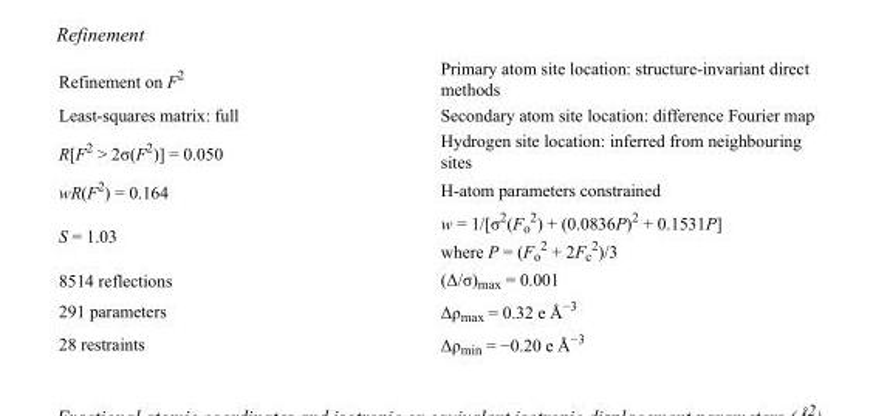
<table><tbody><tr><td>Refinement on F<sup>2</sup></td><td>Primary atom site location: structure-invariant direct methods</td></tr><tr><td>Least-squares matrix: full</td><td>Secondary atom site location: difference Fourier map</td></tr><tr><td>R[F<sup>2</sup> &gt; 2σ(F<sup>2</sup>)] = 0.050</td><td>Hydrogen site location: inferred from neighbouring sites</td></tr><tr><td>wR(F<sup>2</sup>) = 0.164</td><td>H-atom parameters constrained</td></tr><tr><td>S = 1.03</td><td>w = 1/[σ<sup>2</sup>(F<sub>o</sub> <sup>2</sup>) + (0.0836P)<sup>2</sup> + 0.1531P] where P = (F<sub>o</sub> <sup>2</sup> + 2F<sub>c</sub> <sup>2</sup>)/3</td></tr><tr><td>8514 reflections</td><td>(Δ/σ)<sub>max</sub> = 0.001</td></tr><tr><td>291 parameters</td><td>Δρ<sub>max</sub> = 0.32 e Å<sup>−3</sup></td></tr><tr><td>28 restraints</td><td>Δρ<sub>min</sub> = −0.20 e Å<sup>−3</sup></td></tr></tbody></table>